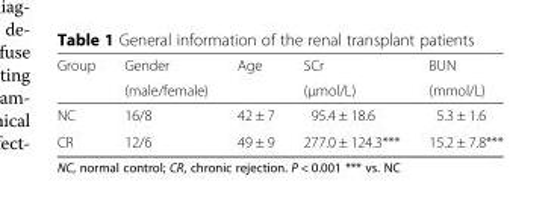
<table><thead><tr><td rowspan="2">Group</td><td rowspan="2">Gender (male/female)</td><td rowspan="2">Age</td><td rowspan="2">SCr (μmol/L)</td><td rowspan="2">BUN (mmol/L)</td></tr><tr></tr></thead><tbody><tr><td>NC</td><td>16/8</td><td>42 ± 7</td><td>95.4 ± 18.6</td><td>5.3 ± 1.6</td></tr><tr><td>CR</td><td>12/6</td><td>49 ± 9</td><td>277.0 ± 124.3***</td><td>15.2 ± 7.8***</td></tr></tbody></table>